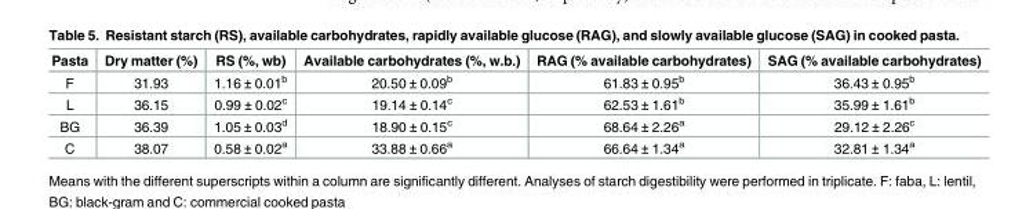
<table><thead><tr><td>Pasta</td><td>Dry matter (%)</td><td>RS (%, wb)</td><td>Available carbohydrates (%, w.b.)</td><td>RAG (% available carbohydrates)</td><td>SAG (% available carbohydrates)</td></tr></thead><tbody><tr><td>F</td><td>31.93</td><td>1.16 ± 0.01<sup>b</sup></td><td>20.50 ± 0.09<sup>b</sup></td><td>61.83 ± 0.95<sup>b</sup></td><td>36.43 ± 0.95<sup>b</sup></td></tr><tr><td>L</td><td>36.15</td><td>0.99 ± 0.02<sup>c</sup></td><td>19.14 ± 0.14<sup>c</sup></td><td>62.53 ± 1.61<sup>b</sup></td><td>35.99 ± 1.61<sup>b</sup></td></tr><tr><td>BG</td><td>36.39</td><td>1.05 ± 0.03<sup>d</sup></td><td>18.90 ± 0.15<sup>c</sup></td><td>68.64 ± 2.26<sup>a</sup></td><td>29.12 ± 2.26<sup>c</sup></td></tr><tr><td>C</td><td>38.07</td><td>0.58 ± 0.02<sup>a</sup></td><td>33.88 ± 0.66<sup>a</sup></td><td>66.64 ± 1.34<sup>a</sup></td><td>32.81 ± 1.34<sup>a</sup></td></tr></tbody></table>